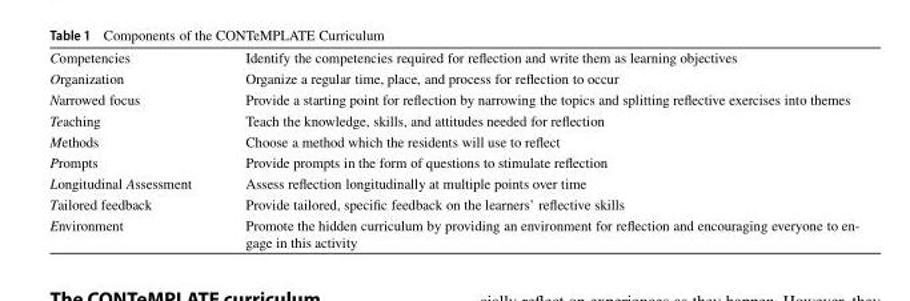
<table><tbody><tr><td>Competencies</td><td>Identify the competencies required for reflection and write them as learning objectives</td></tr><tr><td>Organization</td><td>Organize a regular time, place, and process for reflection to occur</td></tr><tr><td>Narrowed focus</td><td>Provide a starting point for reflection by narrowing the topics and splitting reflective exercises into themes</td></tr><tr><td>Teaching</td><td>Teach the knowledge, skills, and attitudes needed for reflection</td></tr><tr><td>Methods</td><td>Choose a method which the residents will use to reflect</td></tr><tr><td>Prompts</td><td>Provide prompts in the form of questions to stimulate reflection</td></tr><tr><td>Longitudinal Assessment</td><td>Assess reflection longitudinally at multiple points over time</td></tr><tr><td>Tailored feedback</td><td>Provide tailored, specific feedback on the learners’ reflective skills</td></tr><tr><td>Environment</td><td>Promote the hidden curriculum by providing an environment for reflection and encouraging everyone to en- gage in this activity</td></tr></tbody></table>